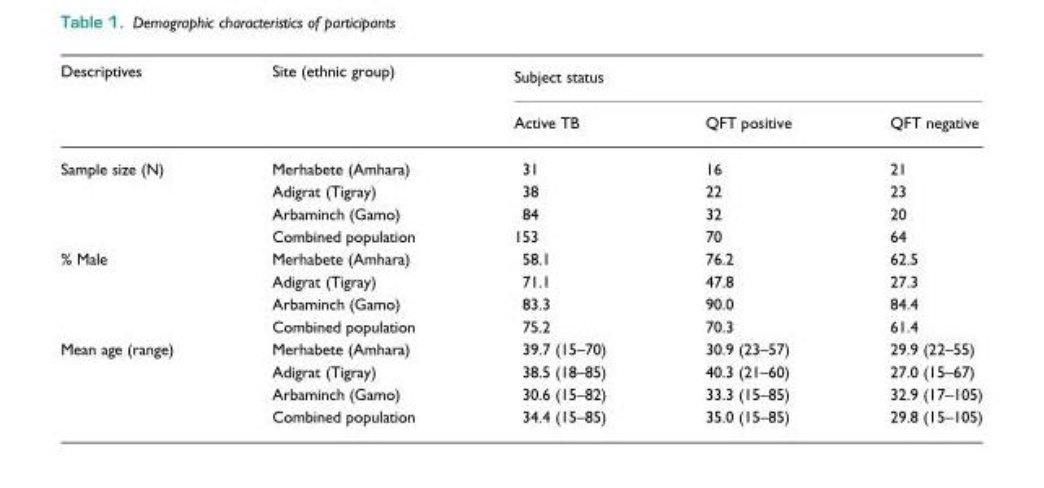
<table><thead><tr><td rowspan="2">Descriptives</td><td rowspan="2">Site (ethnic group)</td><td colspan="3">Subject status</td></tr><tr><td>Active TB</td><td>QFT positive</td><td>QFT negative</td></tr></thead><tbody><tr><td rowspan="4">Sample size (N)</td><td>Merhabete (Amhara)</td><td>31</td><td>16</td><td>21</td></tr><tr><td>Adigrat (Tigray)</td><td>38</td><td>22</td><td>23</td></tr><tr><td>Arbaminch (Gamo)</td><td>84</td><td>32</td><td>20</td></tr><tr><td>Combined population</td><td>153</td><td>70</td><td>64</td></tr><tr><td rowspan="4">% Male</td><td>Merhabete (Amhara)</td><td>58.1</td><td>76.2</td><td>62.5</td></tr><tr><td>Adigrat (Tigray)</td><td>71.1</td><td>47.8</td><td>27.3</td></tr><tr><td>Arbaminch (Gamo)</td><td>83.3</td><td>90.0</td><td>84.4</td></tr><tr><td>Combined population</td><td>75.2</td><td>70.3</td><td>61.4</td></tr><tr><td rowspan="4">Mean age (range)</td><td>Merhabete (Amhara)</td><td>39.7 (15–70)</td><td>30.9 (23–57)</td><td>29.9 (22–55)</td></tr><tr><td>Adigrat (Tigray)</td><td>38.5 (18–85)</td><td>40.3 (21–60)</td><td>27.0 (15–67)</td></tr><tr><td>Arbaminch (Gamo)</td><td>30.6 (15–82)</td><td>33.3 (15–85)</td><td>32.9 (17–105)</td></tr><tr><td>Combined population</td><td>34.4 (15–85)</td><td>35.0 (15–85)</td><td>29.8 (15–105)</td></tr></tbody></table>